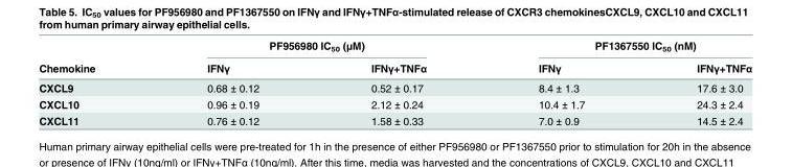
<table><thead><tr><td rowspan="2">Chemokine</td><td colspan="2">PF956980 IC<sub>50</sub> (μM)</td><td colspan="2">PF1367550 IC<sub>50</sub> (nM)</td></tr><tr><td>IFNγ</td><td>IFNγ+TNFα</td><td>IFNγ</td><td>IFNγ+TNFα</td></tr></thead><tbody><tr><td>CXCL9</td><td>0.68 ± 0.12</td><td>0.52 ± 0.17</td><td>8.4 ± 1.3</td><td>17.6 ± 3.0</td></tr><tr><td>CXCL10</td><td>0.96 ± 0.19</td><td>2.12 ± 0.24</td><td>10.4 ± 1.7</td><td>24.3 ± 2.4</td></tr><tr><td>CXCL11</td><td>0.76 ± 0.12</td><td>1.58 ± 0.33</td><td>7.0 ± 0.9</td><td>14.5 ± 2.4</td></tr></tbody></table>